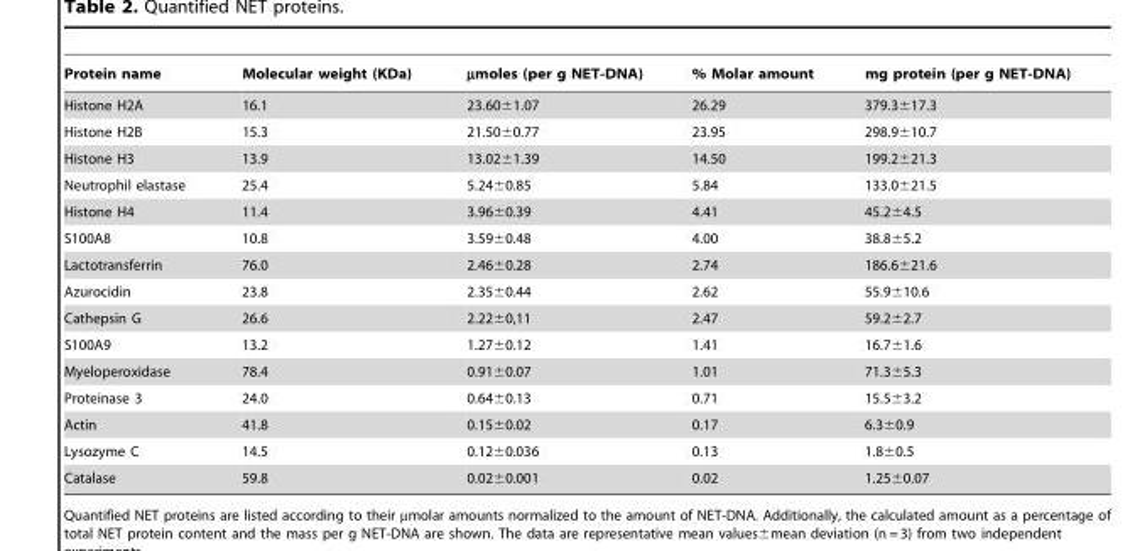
<table><thead><tr><td>Protein name</td><td>Molecular weight (KDa)</td><td>µmoles (per g NET-DNA)</td><td>% Molar amount</td><td>mg protein (per g NET-DNA)</td></tr></thead><tbody><tr><td>Histone H2A</td><td>16.1</td><td>23.60±1.07</td><td>26.29</td><td>379.3±17.3</td></tr><tr><td>Histone H2B</td><td>15.3</td><td>21.50±0.77</td><td>23.95</td><td>298.9±10.7</td></tr><tr><td>Histone H3</td><td>13.9</td><td>13.02±1.39</td><td>14.50</td><td>199.2±21.3</td></tr><tr><td>Neutrophil elastase</td><td>25.4</td><td>5.24±0.85</td><td>5.84</td><td>133.0±21.5</td></tr><tr><td>Histone H4</td><td>11.4</td><td>3.96±0.39</td><td>4.41</td><td>45.2±4.5</td></tr><tr><td>S100A8</td><td>10.8</td><td>3.59±0.48</td><td>4.00</td><td>38.8±5.2</td></tr><tr><td>Lactotransferrin</td><td>76.0</td><td>2.46±0.28</td><td>2.74</td><td>186.6±21.6</td></tr><tr><td>Azurocidin</td><td>23.8</td><td>2.35±0.44</td><td>2.62</td><td>55.9±10.6</td></tr><tr><td>Cathepsin G</td><td>26.6</td><td>2.22±0,11</td><td>2.47</td><td>59.2±2.7</td></tr><tr><td>S100A9</td><td>13.2</td><td>1.27±0.12</td><td>1.41</td><td>16.7±1.6</td></tr><tr><td>Myeloperoxidase</td><td>78.4</td><td>0.91±0.07</td><td>1.01</td><td>71.3±5.3</td></tr><tr><td>Proteinase 3</td><td>24.0</td><td>0.64±0.13</td><td>0.71</td><td>15.5±3.2</td></tr><tr><td>Actin</td><td>41.8</td><td>0.15±0.02</td><td>0.17</td><td>6.3±0.9</td></tr><tr><td>Lysozyme C</td><td>14.5</td><td>0.12±0.036</td><td>0.13</td><td>1.8±0.5</td></tr><tr><td>Catalase</td><td>59.8</td><td>0.02±0.001</td><td>0.02</td><td>1.25±0.07</td></tr></tbody></table>